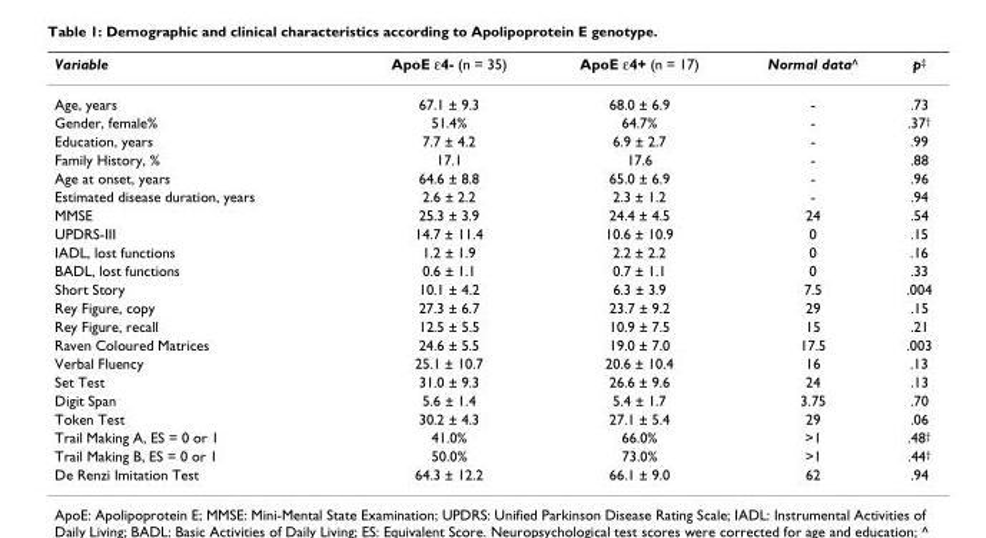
<table><thead><tr><td>Variable</td><td>ApoE ε4- (n = 35)</td><td>ApoE ε4+ (n = 17)</td><td>Normal data^</td><td>p‡</td></tr></thead><tbody><tr><td>Age, years</td><td>67.1 ± 9.3</td><td>68.0 ± 6.9</td><td>-</td><td>.73</td></tr><tr><td>Gender, female%</td><td>51.4%</td><td>64.7%</td><td>-</td><td>.37†</td></tr><tr><td>Education, years</td><td>7.7 ± 4.2</td><td>6.9 ± 2.7</td><td>-</td><td>.99</td></tr><tr><td>Family History, %</td><td>17.1</td><td>17.6</td><td>-</td><td>.88</td></tr><tr><td>Age at onset, years</td><td>64.6 ± 8.8</td><td>65.0 ± 6.9</td><td>-</td><td>.96</td></tr><tr><td>Estimated disease duration, years</td><td>2.6 ± 2.2</td><td>2.3 ± 1.2</td><td>-</td><td>.94</td></tr><tr><td>MMSE</td><td>25.3 ± 3.9</td><td>24.4 ± 4.5</td><td>24</td><td>.54</td></tr><tr><td>UPDRS-III</td><td>14.7 ± 11.4</td><td>10.6 ± 10.9</td><td>0</td><td>.15</td></tr><tr><td>IADL, lost functions</td><td>1.2 ± 1.9</td><td>2.2 ± 2.2</td><td>0</td><td>.16</td></tr><tr><td>BADL, lost functions</td><td>0.6 ± 1.1</td><td>0.7 ± 1.1</td><td>0</td><td>.33</td></tr><tr><td>Short Story</td><td>10.1 ± 4.2</td><td>6.3 ± 3.9</td><td>7.5</td><td>.004</td></tr><tr><td>Rey Figure, copy</td><td>27.3 ± 6.7</td><td>23.7 ± 9.2</td><td>29</td><td>.15</td></tr><tr><td>Rey Figure, recall</td><td>12.5 ± 5.5</td><td>10.9 ± 7.5</td><td>15</td><td>.21</td></tr><tr><td>Raven Coloured Matrices</td><td>24.6 ± 5.5</td><td>19.0 ± 7.0</td><td>17.5</td><td>.003</td></tr><tr><td>Verbal Fluency</td><td>25.1 ± 10.7</td><td>20.6 ± 10.4</td><td>16</td><td>.13</td></tr><tr><td>Set Test</td><td>31.0 ± 9.3</td><td>26.6 ± 9.6</td><td>24</td><td>.13</td></tr><tr><td>Digit Span</td><td>5.6 ± 1.4</td><td>5.4 ± 1.7</td><td>3.75</td><td>.70</td></tr><tr><td>Token Test</td><td>30.2 ± 4.3</td><td>27.1 ± 5.4</td><td>29</td><td>.06</td></tr><tr><td>Trail Making A, ES = 0 or 1</td><td>41.0%</td><td>66.0%</td><td>&gt;1</td><td>.48†</td></tr><tr><td>Trail Making B, ES = 0 or 1</td><td>50.0%</td><td>73.0%</td><td>&gt;1</td><td>.44†</td></tr><tr><td>De Renzi Imitation Test</td><td>64.3 ± 12.2</td><td>66.1 ± 9.0</td><td>62</td><td>.94</td></tr></tbody></table>